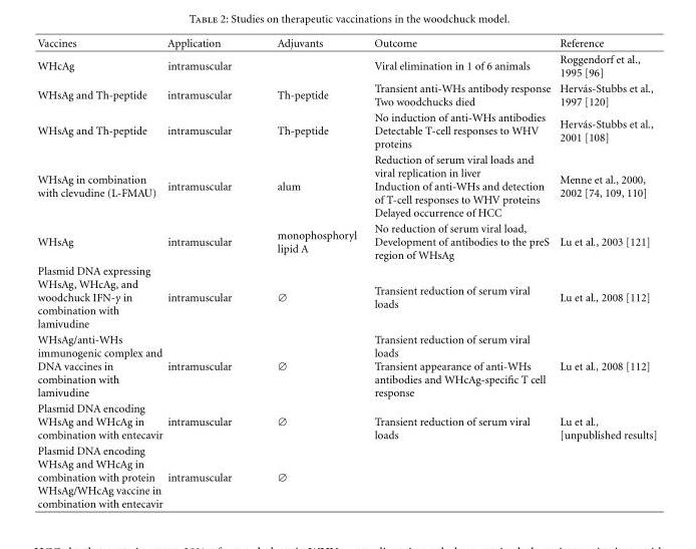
<table><thead><tr><td>Vaccines</td><td>Application</td><td>Adjuvants</td><td>Outcome</td><td>Reference</td></tr></thead><tbody><tr><td>WHcAg</td><td>intramuscular</td><td></td><td>Viral elimination in 1 of 6 animals</td><td>Roggendorf et al., 1995 [96]</td></tr><tr><td>WHsAg and Th-peptide</td><td>intramuscular</td><td>Th-peptide</td><td>Transient anti-WHs antibody response Two woodchucks died</td><td>Herv´as-Stubbs et al., 1997 [120]</td></tr><tr><td>WHsAg and Th-peptide</td><td>intramuscular</td><td>Th-peptide</td><td>No induction of anti-WHs antibodies Detectable T-cell responses to WHV proteins</td><td>Herv´as-Stubbs et al., 2001 [108]</td></tr><tr><td>WHsAg in combination with clevudine (L-FMAU)</td><td>intramuscular</td><td>alum</td><td>Reduction of serum viral loads and viral replication in liver Induction of anti-WHs and detection of T-cell responses to WHV proteins Delayed occurrence of HCC</td><td>Menne et al., 2000, 2002 [74, 109, 110]</td></tr><tr><td>WHsAg</td><td>intramuscular</td><td>monophosphoryl lipid A</td><td>No reduction of serum viral load, Development of antibodies to the preS region of WHsAg</td><td>Lu et al., 2003 [121]</td></tr><tr><td>Plasmid DNA expressing WHsAg, WHcAg, and woodchuck IFN-γ in combination with lamivudine</td><td>intramuscular</td><td>∅</td><td>Transient reduction of serum viral loads</td><td>Lu et al., 2008 [112]</td></tr><tr><td>WHsAg/anti-WHs immunogenic complex and DNA vaccines in combination with lamivudine</td><td>intramuscular</td><td>∅</td><td>Transient reduction of serum viral loads Transient appearance of anti-WHs antibodies and WHcAg-specific T cell response</td><td>Lu et al., 2008 [112]</td></tr><tr><td>Plasmid DNA encoding WHsAg and WHcAg in combination with entecavir</td><td>intramuscular</td><td>∅</td><td rowspan="2">Transient reduction of serum viral loads</td><td rowspan="2">Lu et al., [unpublished results]</td></tr><tr><td>Plasmid DNA encoding WHsAg and WHcAg in combination with protein WHsAg/WHcAg vaccine in combination with entecavir</td><td>intramuscular</td><td>∅</td></tr></tbody></table>